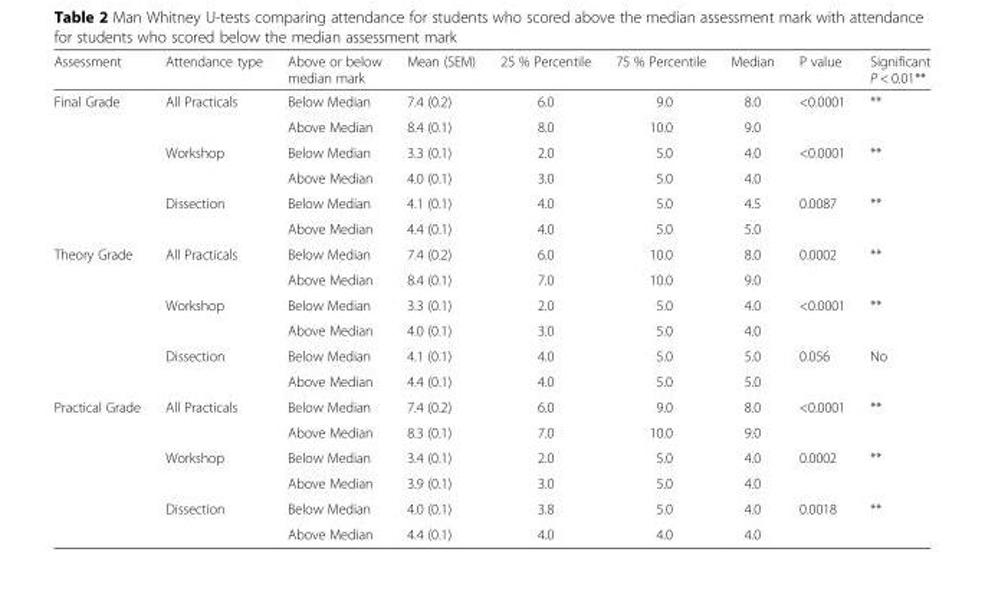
<table><thead><tr><td>Assessment</td><td>Attendance type</td><td>Above or below median mark</td><td>Mean (SEM)</td><td>25 % Percentile</td><td>75 % Percentile</td><td>Median</td><td>P value</td><td>Significant P &lt; 0.01**</td></tr></thead><tbody><tr><td rowspan="6">Final Grade</td><td rowspan="2">All Practicals</td><td>Below Median</td><td>7.4 (0.2)</td><td>6.0</td><td>9.0</td><td>8.0</td><td rowspan="2">&lt;0.0001</td><td rowspan="2">**</td></tr><tr><td>Above Median</td><td>8.4 (0.1)</td><td>8.0</td><td>10.0</td><td>9.0</td></tr><tr><td rowspan="2">Workshop</td><td>Below Median</td><td>3.3 (0.1)</td><td>2.0</td><td>5.0</td><td>4.0</td><td rowspan="2">&lt;0.0001</td><td rowspan="2">**</td></tr><tr><td>Above Median</td><td>4.0 (0.1)</td><td>3.0</td><td>5.0</td><td>4.0</td></tr><tr><td rowspan="2">Dissection</td><td>Below Median</td><td>4.1 (0.1)</td><td>4.0</td><td>5.0</td><td>4.5</td><td rowspan="2">0.0087</td><td rowspan="2">**</td></tr><tr><td>Above Median</td><td>4.4 (0.1)</td><td>4.0</td><td>5.0</td><td>5.0</td></tr><tr><td rowspan="6">Theory Grade</td><td rowspan="2">All Practicals</td><td>Below Median</td><td>7.4 (0.2)</td><td>6.0</td><td>10.0</td><td>8.0</td><td rowspan="2">0.0002</td><td rowspan="2">**</td></tr><tr><td>Above Median</td><td>8.4 (0.1)</td><td>7.0</td><td>10.0</td><td>9.0</td></tr><tr><td rowspan="2">Workshop</td><td>Below Median</td><td>3.3 (0.1)</td><td>2.0</td><td>5.0</td><td>4.0</td><td rowspan="2">&lt;0.0001</td><td rowspan="2">**</td></tr><tr><td>Above Median</td><td>4.0 (0.1)</td><td>3.0</td><td>5.0</td><td>4.0</td></tr><tr><td rowspan="2">Dissection</td><td>Below Median</td><td>4.1 (0.1)</td><td>4.0</td><td>5.0</td><td>5.0</td><td rowspan="2">0.056</td><td rowspan="2">No</td></tr><tr><td>Above Median</td><td>4.4 (0.1)</td><td>4.0</td><td>5.0</td><td>5.0</td></tr><tr><td rowspan="6">Practical Grade</td><td rowspan="2">All Practicals</td><td>Below Median</td><td>7.4 (0.2)</td><td>6.0</td><td>9.0</td><td>8.0</td><td rowspan="2">&lt;0.0001</td><td rowspan="2">**</td></tr><tr><td>Above Median</td><td>8.3 (0.1)</td><td>7.0</td><td>10.0</td><td>9.0</td></tr><tr><td rowspan="2">Workshop</td><td>Below Median</td><td>3.4 (0.1)</td><td>2.0</td><td>5.0</td><td>4.0</td><td rowspan="2">0.0002</td><td rowspan="2">**</td></tr><tr><td>Above Median</td><td>3.9 (0.1)</td><td>3.0</td><td>5.0</td><td>4.0</td></tr><tr><td rowspan="2">Dissection</td><td>Below Median</td><td>4.0 (0.1)</td><td>3.8</td><td>5.0</td><td>4.0</td><td rowspan="2">0.0018</td><td rowspan="2">**</td></tr><tr><td>Above Median</td><td>4.4 (0.1)</td><td>4.0</td><td>4.0</td><td>4.0</td></tr></tbody></table>